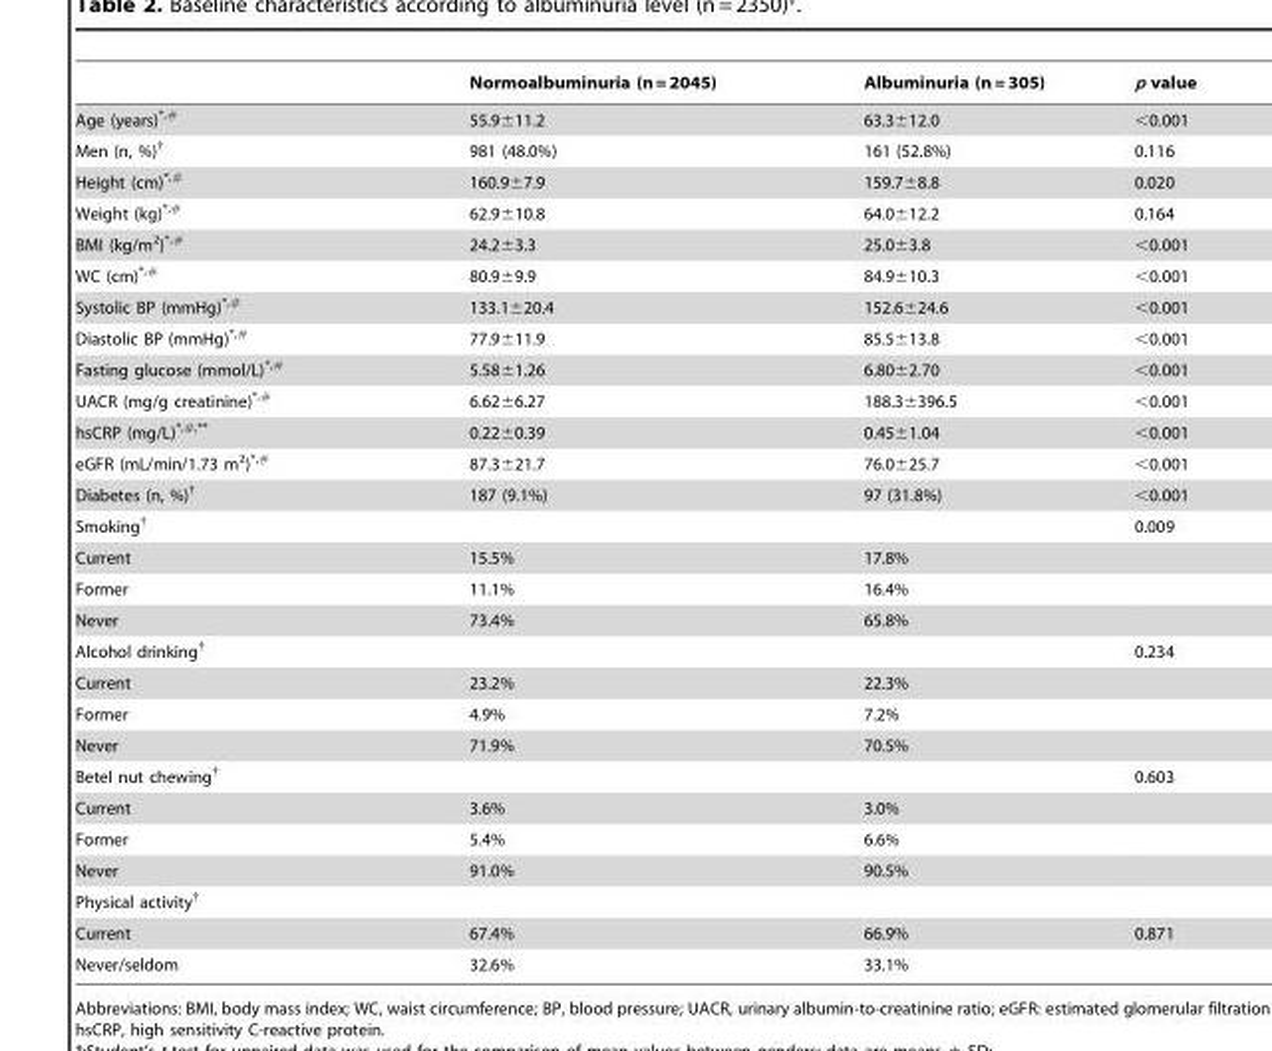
<table><thead><tr><td></td><td>Normoalbuminuria (n = 2045)</td><td>Albuminuria (n = 305)</td><td>p value</td></tr></thead><tbody><tr><td>Age (years)*<sup>,</sup>#</td><td>55.9±11.2</td><td>63.3±12.0</td><td>&lt;0.001</td></tr><tr><td>Men (n, %)†</td><td>981 (48.0%)</td><td>161 (52.8%)</td><td>0.116</td></tr><tr><td>Height (cm)*<sup>,</sup>#</td><td>160.9±7.9</td><td>159.7±8.8</td><td>0.020</td></tr><tr><td>Weight (kg)*<sup>,</sup>#</td><td>62.9±10.8</td><td>64.0±12.2</td><td>0.164</td></tr><tr><td>BMI (kg/m<sup>2</sup>)*<sup>,</sup>#</td><td>24.2±3.3</td><td>25.0±3.8</td><td>&lt;0.001</td></tr><tr><td>WC (cm)*<sup>,</sup>#</td><td>80.9±9.9</td><td>84.9±10.3</td><td>&lt;0.001</td></tr><tr><td>Systolic BP (mmHg)*<sup>,</sup>#</td><td>133.1±20.4</td><td>152.6±24.6</td><td>&lt;0.001</td></tr><tr><td>Diastolic BP (mmHg)*<sup>,</sup>#</td><td>77.9±11.9</td><td>85.5±13.8</td><td>&lt;0.001</td></tr><tr><td>Fasting glucose (mmol/L)*<sup>,</sup>#</td><td>5.58±1.26</td><td>6.80±2.70</td><td>&lt;0.001</td></tr><tr><td>UACR (mg/g creatinine)*<sup>,</sup>#</td><td>6.62±6.27</td><td>188.3±396.5</td><td>&lt;0.001</td></tr><tr><td>hsCRP (mg/L)*<sup>,</sup>#<sup>,</sup>**</td><td>0.22±0.39</td><td>0.45±1.04</td><td>&lt;0.001</td></tr><tr><td>eGFR (mL/min/1.73 m<sup>2</sup>)*<sup>,</sup>#</td><td>87.3±21.7</td><td>76.0±25.7</td><td>&lt;0.001</td></tr><tr><td>Diabetes (n, %)†</td><td>187 (9.1%)</td><td>97 (31.8%)</td><td>&lt;0.001</td></tr><tr><td>Smoking†</td><td></td><td></td><td>0.009</td></tr><tr><td>Current</td><td>15.5%</td><td>17.8%</td><td></td></tr><tr><td>Former</td><td>11.1%</td><td>16.4%</td><td></td></tr><tr><td>Never</td><td>73.4%</td><td>65.8%</td><td></td></tr><tr><td>Alcohol drinking†</td><td></td><td></td><td>0.234</td></tr><tr><td>Current</td><td>23.2%</td><td>22.3%</td><td></td></tr><tr><td>Former</td><td>4.9%</td><td>7.2%</td><td></td></tr><tr><td>Never</td><td>71.9%</td><td>70.5%</td><td></td></tr><tr><td>Betel nut chewing†</td><td></td><td></td><td>0.603</td></tr><tr><td>Current</td><td>3.6%</td><td>3.0%</td><td></td></tr><tr><td>Former</td><td>5.4%</td><td>6.6%</td><td></td></tr><tr><td>Never</td><td>91.0%</td><td>90.5%</td><td></td></tr><tr><td colspan="4">Physical activity†</td></tr><tr><td>Current</td><td>67.4%</td><td>66.9%</td><td>0.871</td></tr><tr><td>Never/seldom</td><td>32.6%</td><td>33.1%</td><td></td></tr></tbody></table>